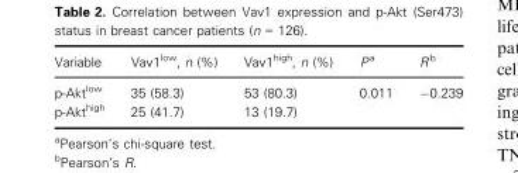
<table><thead><tr><td>Variable</td><td>Vav1<sup>low</sup>, n (%)</td><td>Vav1<sup>high</sup>, n (%)</td><td>P a</td><td>R b</td></tr></thead><tbody><tr><td>p-Akt<sup>low</sup></td><td>35 (58.3)</td><td>53 (80.3)</td><td rowspan="2">0.011</td><td rowspan="2">−0.239</td></tr><tr><td>p-Akt<sup>high</sup></td><td>25 (41.7)</td><td>13 (19.7)</td></tr></tbody></table>